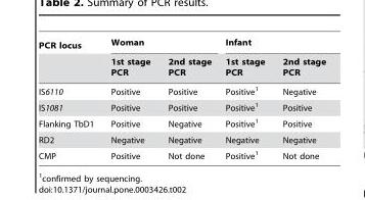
<table><thead><tr><td rowspan="2">PCR locus</td><td colspan="2">Woman</td><td colspan="2">Infant</td></tr><tr><td>1st stage PCR</td><td>2nd stage PCR</td><td>1st stage PCR</td><td>2nd stage PCR</td></tr></thead><tbody><tr><td>IS6110</td><td>Positive</td><td>Positive</td><td>Positive<sup>1</sup></td><td>Negative</td></tr><tr><td>IS1081</td><td>Positive</td><td>Positive</td><td>Positive<sup>1</sup></td><td>Positive</td></tr><tr><td>Flanking TbD1</td><td>Positive</td><td>Negative</td><td>Positive<sup>1</sup></td><td>Positive</td></tr><tr><td>RD2</td><td>Negative</td><td>Negative</td><td>Negative</td><td>Negative</td></tr><tr><td>CMP</td><td>Positive</td><td>Not done</td><td>Positive<sup>1</sup></td><td>Not done</td></tr></tbody></table>